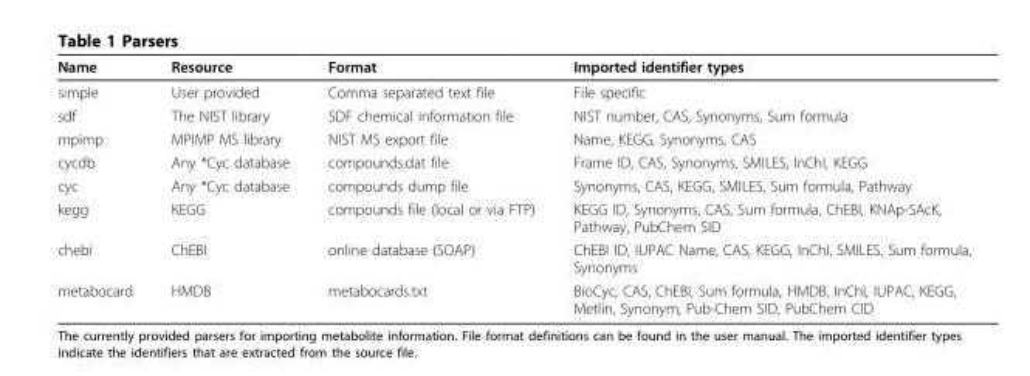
<table><thead><tr><td>Name</td><td>Resource</td><td>Format</td><td>Imported identifier types</td></tr></thead><tbody><tr><td>simple</td><td>User provided</td><td>Comma separated text file</td><td>File specific</td></tr><tr><td>sdf</td><td>The NIST library</td><td>SDF chemical information file</td><td>NIST number, CAS, Synonyms, Sum formula</td></tr><tr><td>mpimp</td><td>MPIMP MS library</td><td>NIST MS export file</td><td>Name, KEGG, Synonyms, CAS</td></tr><tr><td>cycdb</td><td>Any *Cyc database</td><td>compounds.dat file</td><td>Frame ID, CAS, Synonyms, SMILES, InChI, KEGG</td></tr><tr><td>cyc</td><td>Any *Cyc database</td><td>compounds dump file</td><td>Synonyms, CAS, KEGG, SMILES, Sum formula, Pathway</td></tr><tr><td>kegg</td><td>KEGG</td><td>compounds file (local or via FTP)</td><td>KEGG ID, Synonyms, CAS, Sum formula, ChEBI, KNAp-SAcK, Pathway, PubChem SID</td></tr><tr><td>chebi</td><td>ChEBI</td><td>online database (SOAP)</td><td>ChEBI ID, IUPAC Name, CAS, KEGG, InChI, SMILES, Sum formula, Synonyms</td></tr><tr><td>metabocard</td><td>HMDB</td><td>metabocards.txt</td><td>BioCyc, CAS, ChEBI, Sum formula, HMDB, InChI, IUPAC, KEGG, Metlin, Synonym, Pub-Chem SID, PubChem CID</td></tr></tbody></table>